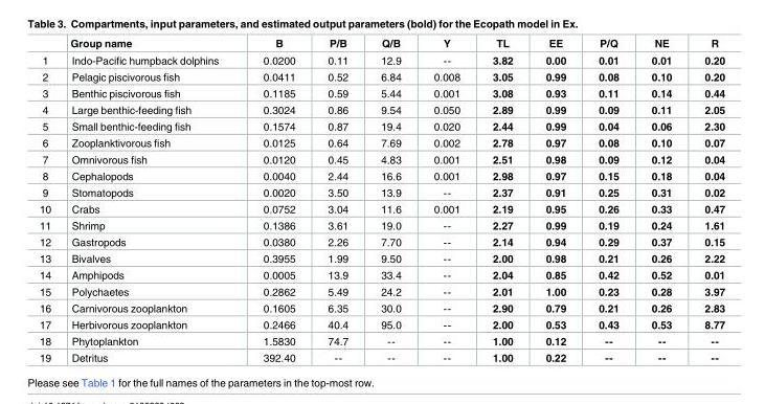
<table><thead><tr><td></td><td>Group name</td><td>B</td><td>P/B</td><td>Q/B</td><td>Y</td><td>TL</td><td>EE</td><td>P/Q</td><td>NE</td><td>R</td></tr></thead><tbody><tr><td>1</td><td>Indo-Pacific humpback dolphins</td><td>0.0200</td><td>0.11</td><td>12.9</td><td>--</td><td>3.82</td><td>0.00</td><td>0.01</td><td>0.01</td><td>0.20</td></tr><tr><td>2</td><td>Pelagic piscivorous fish</td><td>0.0411</td><td>0.52</td><td>6.84</td><td>0.008</td><td>3.05</td><td>0.99</td><td>0.08</td><td>0.10</td><td>0.20</td></tr><tr><td>3</td><td>Benthic piscivorous fish</td><td>0.1185</td><td>0.59</td><td>5.44</td><td>0.001</td><td>3.08</td><td>0.93</td><td>0.11</td><td>0.14</td><td>0.44</td></tr><tr><td>4</td><td>Large benthic-feeding fish</td><td>0.3024</td><td>0.86</td><td>9.54</td><td>0.050</td><td>2.89</td><td>0.99</td><td>0.09</td><td>0.11</td><td>2.05</td></tr><tr><td>5</td><td>Small benthic-feeding fish</td><td>0.1574</td><td>0.87</td><td>19.4</td><td>0.020</td><td>2.44</td><td>0.99</td><td>0.04</td><td>0.06</td><td>2.30</td></tr><tr><td>6</td><td>Zooplanktivorous fish</td><td>0.0125</td><td>0.64</td><td>7.69</td><td>0.002</td><td>2.78</td><td>0.97</td><td>0.08</td><td>0.10</td><td>0.07</td></tr><tr><td>7</td><td>Omnivorous fish</td><td>0.0120</td><td>0.45</td><td>4.83</td><td>0.001</td><td>2.51</td><td>0.98</td><td>0.09</td><td>0.12</td><td>0.04</td></tr><tr><td>8</td><td>Cephalopods</td><td>0.0040</td><td>2.44</td><td>16.6</td><td>0.001</td><td>2.98</td><td>0.97</td><td>0.15</td><td>0.18</td><td>0.04</td></tr><tr><td>9</td><td>Stomatopods</td><td>0.0020</td><td>3.50</td><td>13.9</td><td>--</td><td>2.37</td><td>0.91</td><td>0.25</td><td>0.31</td><td>0.02</td></tr><tr><td>10</td><td>Crabs</td><td>0.0752</td><td>3.04</td><td>11.6</td><td>0.001</td><td>2.19</td><td>0.95</td><td>0.26</td><td>0.33</td><td>0.47</td></tr><tr><td>11</td><td>Shrimp</td><td>0.1386</td><td>3.61</td><td>19.0</td><td>--</td><td>2.27</td><td>0.99</td><td>0.19</td><td>0.24</td><td>1.61</td></tr><tr><td>12</td><td>Gastropods</td><td>0.0380</td><td>2.26</td><td>7.70</td><td>--</td><td>2.14</td><td>0.94</td><td>0.29</td><td>0.37</td><td>0.15</td></tr><tr><td>13</td><td>Bivalves</td><td>0.3955</td><td>1.99</td><td>9.50</td><td>--</td><td>2.00</td><td>0.98</td><td>0.21</td><td>0.26</td><td>2.22</td></tr><tr><td>14</td><td>Amphipods</td><td>0.0005</td><td>13.9</td><td>33.4</td><td>--</td><td>2.04</td><td>0.85</td><td>0.42</td><td>0.52</td><td>0.01</td></tr><tr><td>15</td><td>Polychaetes</td><td>0.2862</td><td>5.49</td><td>24.2</td><td>--</td><td>2.01</td><td>1.00</td><td>0.23</td><td>0.28</td><td>3.97</td></tr><tr><td>16</td><td>Carnivorous zooplankton</td><td>0.1605</td><td>6.35</td><td>30.0</td><td>--</td><td>2.90</td><td>0.79</td><td>0.21</td><td>0.26</td><td>2.83</td></tr><tr><td>17</td><td>Herbivorous zooplankton</td><td>0.2466</td><td>40.4</td><td>95.0</td><td>--</td><td>2.00</td><td>0.53</td><td>0.43</td><td>0.53</td><td>8.77</td></tr><tr><td>18</td><td>Phytoplankton</td><td>1.5830</td><td>74.7</td><td>--</td><td>--</td><td>1.00</td><td>0.12</td><td>--</td><td>--</td><td>--</td></tr><tr><td>19</td><td>Detritus</td><td>392.40</td><td>--</td><td>--</td><td>--</td><td>1.00</td><td>0.22</td><td>--</td><td>--</td><td>--</td></tr></tbody></table>